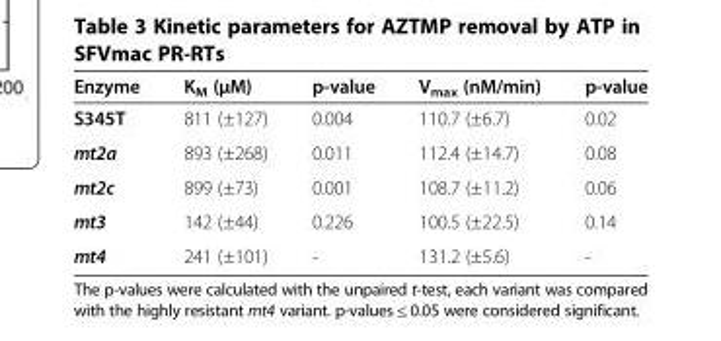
<table><thead><tr><td>Enzyme</td><td>K<sub>M</sub> (μM)</td><td>p-value</td><td>V<sub>max</sub> (nM/min)</td><td>p-value</td></tr></thead><tbody><tr><td>S345T</td><td>811 (±127)</td><td>0.004</td><td>110.7 (±6.7)</td><td>0.02</td></tr><tr><td>mt2a</td><td>893 (±268)</td><td>0.011</td><td>112.4 (±14.7)</td><td>0.08</td></tr><tr><td>mt2c</td><td>899 (±73)</td><td>0.001</td><td>108.7 (±11.2)</td><td>0.06</td></tr><tr><td>mt3</td><td>142 (±44)</td><td>0.226</td><td>100.5 (±22.5)</td><td>0.14</td></tr><tr><td>mt4</td><td>241 (±101)</td><td>-</td><td>131.2 (±5.6)</td><td>-</td></tr></tbody></table>